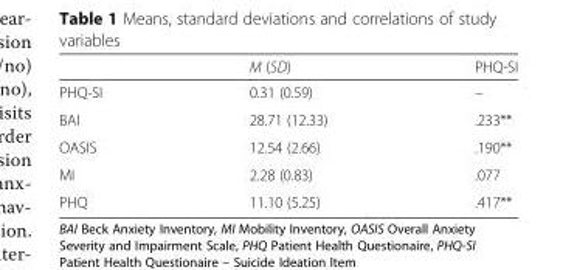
<table><thead><tr><td></td><td>M (SD)</td><td>PHQ-SI</td></tr></thead><tbody><tr><td>PHQ-SI</td><td>0.31 (0.59)</td><td>–</td></tr><tr><td>BAI</td><td>28.71 (12.33)</td><td>.233**</td></tr><tr><td>OASIS</td><td>12.54 (2.66)</td><td>.190**</td></tr><tr><td>MI</td><td>2.28 (0.83)</td><td>.077</td></tr><tr><td>PHQ</td><td>11.10 (5.25)</td><td>.417**</td></tr></tbody></table>